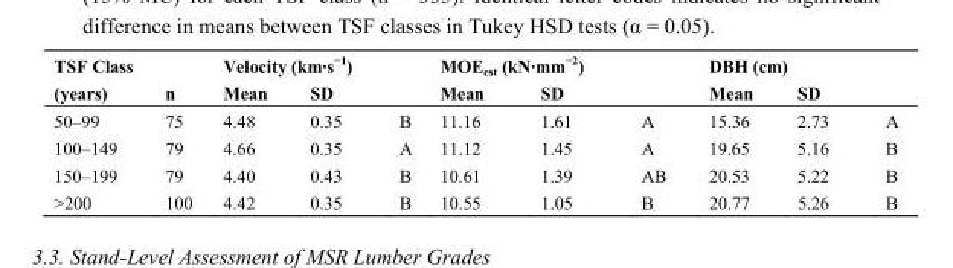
<table><thead><tr><td rowspan="2">TSF Class (years)</td><td rowspan="2">n</td><td colspan="2">Velocity (km·s<sup>−1</sup>)</td><td rowspan="2"></td><td colspan="2">MOE<sub>est</sub> (kN·mm<sup>−2</sup>)</td><td rowspan="2"></td><td colspan="2">DBH (cm)</td><td rowspan="2"></td></tr><tr><td>Mean</td><td>SD</td><td>Mean</td><td>SD</td><td>Mean</td><td>SD</td></tr></thead><tbody><tr><td>50–99</td><td>75</td><td>4.48</td><td>0.35</td><td>B</td><td>11.16</td><td>1.61</td><td>A</td><td>15.36</td><td>2.73</td><td>A</td></tr><tr><td>100–149</td><td>79</td><td>4.66</td><td>0.35</td><td>A</td><td>11.12</td><td>1.45</td><td>A</td><td>19.65</td><td>5.16</td><td>B</td></tr><tr><td>150–199</td><td>79</td><td>4.40</td><td>0.43</td><td>B</td><td>10.61</td><td>1.39</td><td>AB</td><td>20.53</td><td>5.22</td><td>B</td></tr><tr><td>&gt;200</td><td>100</td><td>4.42</td><td>0.35</td><td>B</td><td>10.55</td><td>1.05</td><td>B</td><td>20.77</td><td>5.26</td><td>B</td></tr></tbody></table>